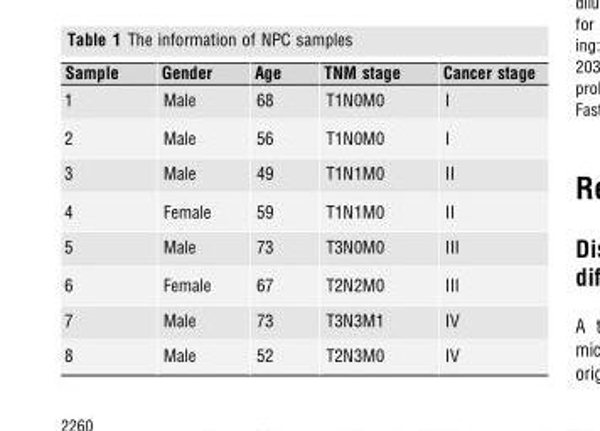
<table><thead><tr><td>Sample</td><td>Gender</td><td>Age</td><td>TNM stage</td><td>Cancer stage</td></tr></thead><tbody><tr><td>1</td><td>Male</td><td>68</td><td>T1N0M0</td><td>I</td></tr><tr><td>2</td><td>Male</td><td>56</td><td>T1N0M0</td><td>I</td></tr><tr><td>3</td><td>Male</td><td>49</td><td>T1N1M0</td><td>II</td></tr><tr><td>4</td><td>Female</td><td>59</td><td>T1N1M0</td><td>II</td></tr><tr><td>5</td><td>Male</td><td>73</td><td>T3N0M0</td><td>III</td></tr><tr><td>6</td><td>Female</td><td>67</td><td>T2N2M0</td><td>III</td></tr><tr><td>7</td><td>Male</td><td>73</td><td>T3N3M1</td><td>IV</td></tr><tr><td>8</td><td>Male</td><td>52</td><td>T2N3M0</td><td>IV</td></tr></tbody></table>